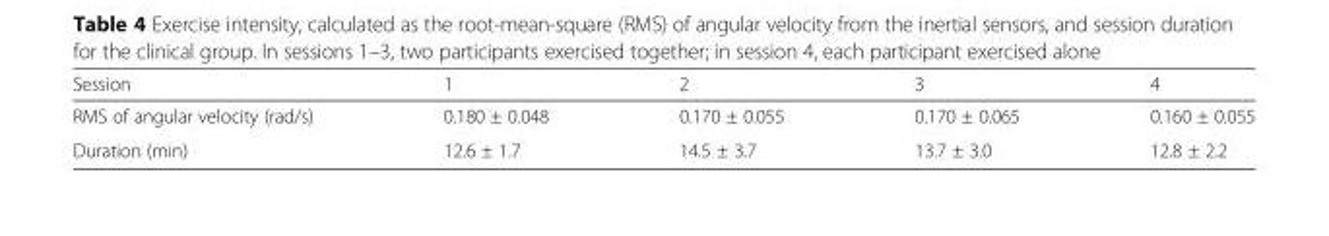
<table><thead><tr><td>Session</td><td>1</td><td>2</td><td>3</td><td>4</td></tr></thead><tbody><tr><td>RMS of angular velocity (rad/s)</td><td>0.180 ± 0.048</td><td>0.170 ± 0.055</td><td>0.170 ± 0.065</td><td>0.160 ± 0.055</td></tr><tr><td>Duration (min)</td><td>12.6 ± 1.7</td><td>14.5 ± 3.7</td><td>13.7 ± 3.0</td><td>12.8 ± 2.2</td></tr></tbody></table>